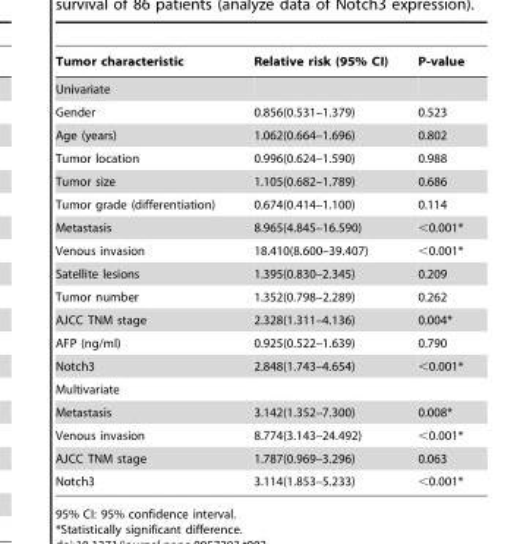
<table><thead><tr><td>Tumor characteristic</td><td>Relative risk (95% CI)</td><td>P-value</td></tr></thead><tbody><tr><td colspan="3">Univariate</td></tr><tr><td>Gender</td><td>0.856(0.531–1.379)</td><td>0.523</td></tr><tr><td>Age (years)</td><td>1.062(0.664–1.696)</td><td>0.802</td></tr><tr><td>Tumor location</td><td>0.996(0.624–1.590)</td><td>0.988</td></tr><tr><td>Tumor size</td><td>1.105(0.682–1.789)</td><td>0.686</td></tr><tr><td>Tumor grade (differentiation)</td><td>0.674(0.414–1.100)</td><td>0.114</td></tr><tr><td>Metastasis</td><td>8.965(4.845–16.590)</td><td>&lt;0.001*</td></tr><tr><td>Venous invasion</td><td>18.410(8.600–39.407)</td><td>&lt;0.001*</td></tr><tr><td>Satellite lesions</td><td>1.395(0.830–2.345)</td><td>0.209</td></tr><tr><td>Tumor number</td><td>1.352(0.798–2.289)</td><td>0.262</td></tr><tr><td>AJCC TNM stage</td><td>2.328(1.311–4.136)</td><td>0.004*</td></tr><tr><td>AFP (ng/ml)</td><td>0.925(0.522–1.639)</td><td>0.790</td></tr><tr><td>Notch3</td><td>2.848(1.743–4.654)</td><td>&lt;0.001*</td></tr><tr><td colspan="3">Multivariate</td></tr><tr><td>Metastasis</td><td>3.142(1.352–7.300)</td><td>0.008*</td></tr><tr><td>Venous invasion</td><td>8.774(3.143–24.492)</td><td>&lt;0.001*</td></tr><tr><td>AJCC TNM stage</td><td>1.787(0.969–3.296)</td><td>0.063</td></tr><tr><td>Notch3</td><td>3.114(1.853–5.233)</td><td>&lt;0.001*</td></tr></tbody></table>